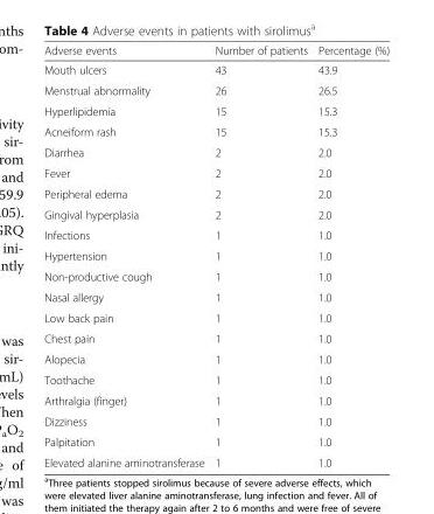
<table><thead><tr><td>Adverse events</td><td>Number of patients</td><td>Percentage (%)</td></tr></thead><tbody><tr><td>Mouth ulcers</td><td>43</td><td>43.9</td></tr><tr><td>Menstrual abnormality</td><td>26</td><td>26.5</td></tr><tr><td>Hyperlipidemia</td><td>15</td><td>15.3</td></tr><tr><td>Acneiform rash</td><td>15</td><td>15.3</td></tr><tr><td>Diarrhea</td><td>2</td><td>2.0</td></tr><tr><td>Fever</td><td>2</td><td>2.0</td></tr><tr><td>Peripheral edema</td><td>2</td><td>2.0</td></tr><tr><td>Gingival hyperplasia</td><td>2</td><td>2.0</td></tr><tr><td>Infections</td><td>1</td><td>1.0</td></tr><tr><td>Hypertension</td><td>1</td><td>1.0</td></tr><tr><td>Non-productive cough</td><td>1</td><td>1.0</td></tr><tr><td>Nasal allergy</td><td>1</td><td>1.0</td></tr><tr><td>Low back pain</td><td>1</td><td>1.0</td></tr><tr><td>Chest pain</td><td>1</td><td>1.0</td></tr><tr><td>Alopecia</td><td>1</td><td>1.0</td></tr><tr><td>Toothache</td><td>1</td><td>1.0</td></tr><tr><td>Arthralgia (finger)</td><td>1</td><td>1.0</td></tr><tr><td>Dizziness</td><td>1</td><td>1.0</td></tr><tr><td>Palpitation</td><td>1</td><td>1.0</td></tr><tr><td>Elevated alanine aminotransferase</td><td>1</td><td>1.0</td></tr></tbody></table>